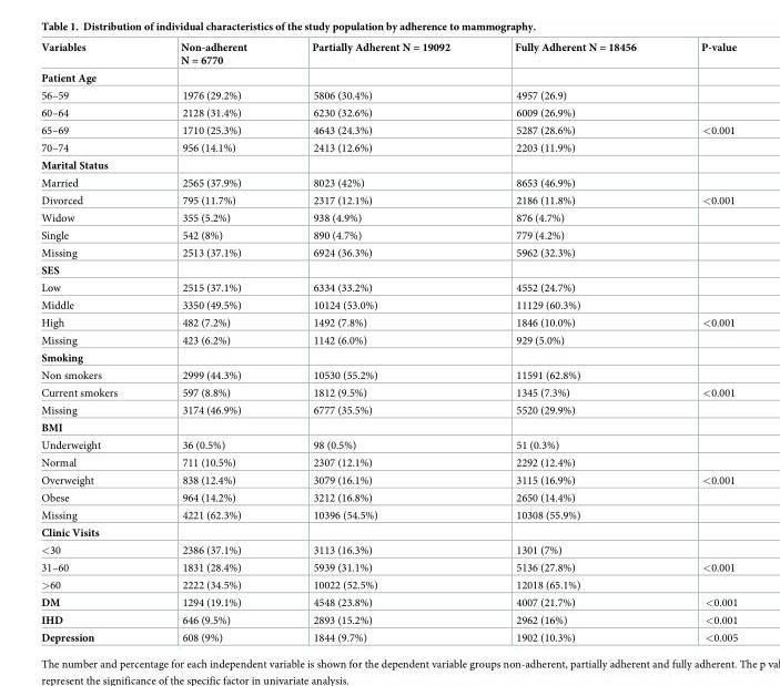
<table><thead><tr><td>Variables</td><td>Non-adherent N = 6770</td><td>Partially Adherent N = 19092</td><td>Fully Adherent N = 18456</td><td>P-value</td></tr></thead><tbody><tr><td colspan="5">Patient Age</td></tr><tr><td>56–59</td><td>1976 (29.2%)</td><td>5806 (30.4%)</td><td>4957 (26.9)</td><td></td></tr><tr><td>60–64</td><td>2128 (31.4%)</td><td>6230 (32.6%)</td><td>6009 (26.9%)</td><td></td></tr><tr><td>65–69</td><td>1710 (25.3%)</td><td>4643 (24.3%)</td><td>5287 (28.6%)</td><td>&lt;0.001</td></tr><tr><td>70–74</td><td>956 (14.1%)</td><td>2413 (12.6%)</td><td>2203 (11.9%)</td><td></td></tr><tr><td colspan="5">Marital Status</td></tr><tr><td>Married</td><td>2565 (37.9%)</td><td>8023 (42%)</td><td>8653 (46.9%)</td><td></td></tr><tr><td>Divorced</td><td>795 (11.7%)</td><td>2317 (12.1%)</td><td>2186 (11.8%)</td><td>&lt;0.001</td></tr><tr><td>Widow</td><td>355 (5.2%)</td><td>938 (4.9%)</td><td>876 (4.7%)</td><td></td></tr><tr><td>Single</td><td>542 (8%)</td><td>890 (4.7%)</td><td>779 (4.2%)</td><td></td></tr><tr><td>Missing</td><td>2513 (37.1%)</td><td>6924 (36.3%)</td><td>5962 (32.3%)</td><td></td></tr><tr><td colspan="5">SES</td></tr><tr><td>Low</td><td>2515 (37.1%)</td><td>6334 (33.2%)</td><td>4552 (24.7%)</td><td></td></tr><tr><td>Middle</td><td>3350 (49.5%)</td><td>10124 (53.0%)</td><td>11129 (60.3%)</td><td></td></tr><tr><td>High</td><td>482 (7.2%)</td><td>1492 (7.8%)</td><td>1846 (10.0%)</td><td>&lt;0.001</td></tr><tr><td>Missing</td><td>423 (6.2%)</td><td>1142 (6.0%)</td><td>929 (5.0%)</td><td></td></tr><tr><td colspan="5">Smoking</td></tr><tr><td>Non smokers</td><td>2999 (44.3%)</td><td>10530 (55.2%)</td><td>11591 (62.8%)</td><td></td></tr><tr><td>Current smokers</td><td>597 (8.8%)</td><td>1812 (9.5%)</td><td>1345 (7.3%)</td><td>&lt;0.001</td></tr><tr><td>Missing</td><td>3174 (46.9%)</td><td>6777 (35.5%)</td><td>5520 (29.9%)</td><td></td></tr><tr><td colspan="5">BMI</td></tr><tr><td>Underweight</td><td>36 (0.5%)</td><td>98 (0.5%)</td><td>51 (0.3%)</td><td></td></tr><tr><td>Normal</td><td>711 (10.5%)</td><td>2307 (12.1%)</td><td>2292 (12.4%)</td><td></td></tr><tr><td>Overweight</td><td>838 (12.4%)</td><td>3079 (16.1%)</td><td>3115 (16.9%)</td><td>&lt;0.001</td></tr><tr><td>Obese</td><td>964 (14.2%)</td><td>3212 (16.8%)</td><td>2650 (14.4%)</td><td></td></tr><tr><td>Missing</td><td>4221 (62.3%)</td><td>10396 (54.5%)</td><td>10308 (55.9%)</td><td></td></tr><tr><td colspan="5">Clinic Visits</td></tr><tr><td>&lt;30</td><td>2386 (37.1%)</td><td>3113 (16.3%)</td><td>1301 (7%)</td><td></td></tr><tr><td>31–60</td><td>1831 (28.4%)</td><td>5939 (31.1%)</td><td>5136 (27.8%)</td><td>&lt;0.001</td></tr><tr><td>&gt;60</td><td>2222 (34.5%)</td><td>10022 (52.5%)</td><td>12018 (65.1%)</td><td></td></tr><tr><td>DM</td><td>1294 (19.1%)</td><td>4548 (23.8%)</td><td>4007 (21.7%)</td><td>&lt;0.001</td></tr><tr><td>IHD</td><td>646 (9.5%)</td><td>2893 (15.2%)</td><td>2962 (16%)</td><td>&lt;0.001</td></tr><tr><td>Depression</td><td>608 (9%)</td><td>1844 (9.7%)</td><td>1902 (10.3%)</td><td>&lt;0.005</td></tr></tbody></table>